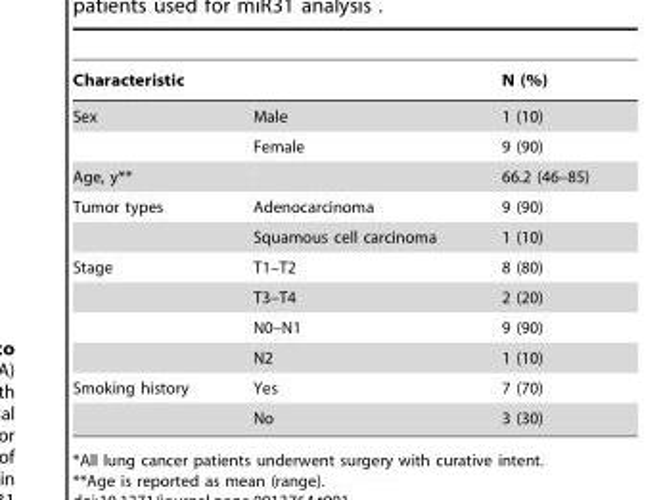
<table><thead><tr><td>Characteristic</td><td></td><td>N (%)</td></tr></thead><tbody><tr><td rowspan="2">Sex</td><td>Male</td><td>1 (10)</td></tr><tr><td>Female</td><td>9 (90)</td></tr><tr><td>Age, y**</td><td></td><td>66.2 (46–85)</td></tr><tr><td rowspan="2">Tumor types</td><td>Adenocarcinoma</td><td>9 (90)</td></tr><tr><td>Squamous cell carcinoma</td><td>1 (10)</td></tr><tr><td rowspan="4">Stage</td><td>T1–T2</td><td>8 (80)</td></tr><tr><td>T3–T4</td><td>2 (20)</td></tr><tr><td>N0–N1</td><td>9 (90)</td></tr><tr><td>N2</td><td>1 (10)</td></tr><tr><td rowspan="2">Smoking history</td><td>Yes</td><td>7 (70)</td></tr><tr><td>No</td><td>3 (30)</td></tr></tbody></table>